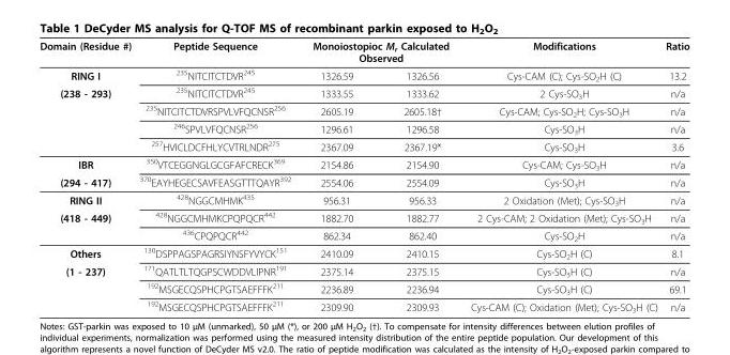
<table><thead><tr><td rowspan="2">Domain (Residue #) RING I</td><td rowspan="2">Peptide Sequence <sup>235</sup>NITCITCTDVR<sup>245</sup></td><td colspan="2">Monoiostopioc M<sub>r</sub> Calculated Observed</td><td rowspan="2">Modifications Cys-CAM (C); Cys-SO<sub>2</sub>H (C)</td><td rowspan="2">Ratio 13.2</td></tr><tr><td>1326.59</td><td>1326.56</td></tr></thead><tbody><tr><td rowspan="4">(238 - 293)</td><td><sup>235</sup>NITCITCTDVR<sup>245</sup></td><td>1333.55</td><td>1333.62</td><td>2 Cys-SO<sub>3</sub>H</td><td>n/a</td></tr><tr><td><sup>235</sup>NITCITCTDVRSPVLVFQCNSR<sup>256</sup></td><td>2605.19</td><td>2605.18†</td><td>Cys-CAM; Cys-SO<sub>2</sub>H; Cys-SO<sub>3</sub>H</td><td>n/a</td></tr><tr><td><sup>246</sup>SPVLVFQCNSR<sup>256</sup></td><td>1296.61</td><td>1296.58</td><td>Cys-SO<sub>3</sub>H</td><td>n/a</td></tr><tr><td><sup>257</sup>HVICLDCFHLYCVTRLNDR<sup>275</sup></td><td>2367.09</td><td>2367.19*</td><td>Cys-SO<sub>3</sub>H</td><td>3.6</td></tr><tr><td>IBR</td><td><sup>350</sup>VTCEGGNGLGCGFAFCRECK<sup>369</sup></td><td>2154.86</td><td>2154.90</td><td>Cys-CAM; Cys-SO<sub>3</sub>H</td><td>n/a</td></tr><tr><td>(294 - 417)</td><td><sup>370</sup>EAYHEGECSAVFEASGTTTQAYR<sup>392</sup></td><td>2554.06</td><td>2554.09</td><td>Cys-SO<sub>3</sub>H</td><td>n/a</td></tr><tr><td>RING II</td><td><sup>428</sup>NGGCMHMK<sup>435</sup></td><td>956.31</td><td>956.33</td><td>2 Oxidation (Met); Cys-SO<sub>3</sub>H</td><td>n/a</td></tr><tr><td rowspan="2">(418 - 449)</td><td><sup>428</sup>NGGCMHMKCPQPQCR<sup>442</sup></td><td>1882.70</td><td>1882.77</td><td>2 Cys-CAM; 2 Oxidation (Met); Cys-SO<sub>3</sub>H</td><td>n/a</td></tr><tr><td><sup>436</sup>CPQPQCR<sup>442</sup></td><td>862.34</td><td>862.40</td><td>Cys-SO<sub>2</sub>H</td><td>n/a</td></tr><tr><td>Others</td><td><sup>130</sup>DSPPAGSPAGRSIYNSFYVYCK<sup>151</sup></td><td>2410.09</td><td>2410.15</td><td>Cys-SO<sub>2</sub>H (C)</td><td>8.1</td></tr><tr><td rowspan="3">(1 - 237)</td><td><sup>171</sup>QATLTLTQGPSCWDDVLIPNR<sup>191</sup></td><td>2375.14</td><td>2375.15</td><td>Cys-SO<sub>3</sub>H (C)</td><td>n/a</td></tr><tr><td><sup>192</sup>MSGECQSPHCPGTSAEFFFK<sup>211</sup></td><td>2236.89</td><td>2236.94</td><td>Cys-SO<sub>3</sub>H (C)</td><td>69.1</td></tr><tr><td><sup>192</sup>MSGECQSPHCPGTSAEFFFK<sup>211</sup></td><td>2309.90</td><td>2309.93</td><td>Cys-CAM (C); Oxidation (Met); Cys-SO<sub>3</sub>H (C)</td><td>n/a</td></tr></tbody></table>